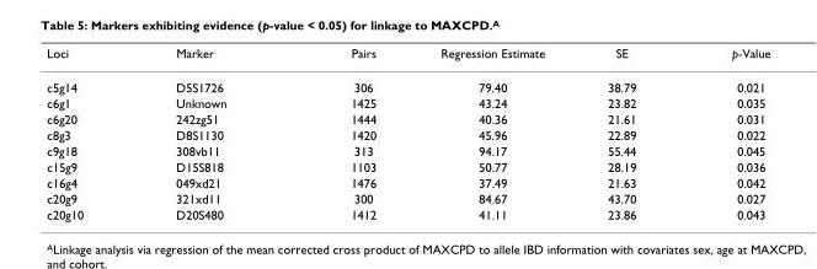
<table><thead><tr><td>Loci</td><td>Marker</td><td>Pairs</td><td>Regression Estimate</td><td>SE</td><td>p-Value</td></tr></thead><tbody><tr><td>c5g14</td><td>D5S1726</td><td>306</td><td>79.40</td><td>38.79</td><td>0.021</td></tr><tr><td>c6g1</td><td>Unknown</td><td>1425</td><td>43.24</td><td>23.82</td><td>0.035</td></tr><tr><td>c6g20</td><td>242zg51</td><td>1444</td><td>40.36</td><td>21.61</td><td>0.031</td></tr><tr><td>c8g3</td><td>D8S1130</td><td>1420</td><td>45.96</td><td>22.89</td><td>0.022</td></tr><tr><td>c9g18</td><td>308vb11</td><td>313</td><td>94.17</td><td>55.44</td><td>0.045</td></tr><tr><td>c15g9</td><td>D15S818</td><td>1103</td><td>50.77</td><td>28.19</td><td>0.036</td></tr><tr><td>c16g4</td><td>049xd21</td><td>1476</td><td>37.49</td><td>21.63</td><td>0.042</td></tr><tr><td>c20g9</td><td>321xd11</td><td>300</td><td>84.67</td><td>43.70</td><td>0.027</td></tr><tr><td>c20g10</td><td>D20S480</td><td>1412</td><td>41.11</td><td>23.86</td><td>0.043</td></tr></tbody></table>